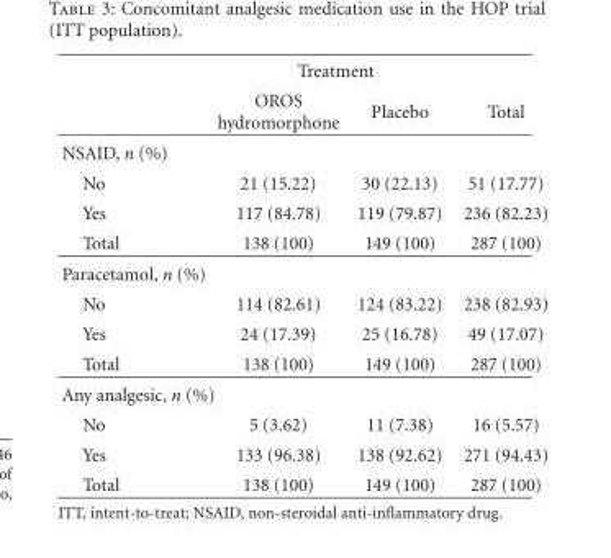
<table><thead><tr><td rowspan="2"></td><td colspan="2">Treatment</td><td rowspan="2">Total</td></tr><tr><td>OROS hydromorphone</td><td>Placebo</td></tr></thead><tbody><tr><td colspan="4">NSAID, n (%)</td></tr><tr><td>No</td><td>21 (15.22)</td><td>30 (22.13)</td><td>51 (17.77)</td></tr><tr><td>Yes</td><td>117 (84.78)</td><td>119 (79.87)</td><td>236 (82.23)</td></tr><tr><td>Total</td><td>138 (100)</td><td>149 (100)</td><td>287 (100)</td></tr><tr><td colspan="4">Paracetamol, n (%)</td></tr><tr><td>No</td><td>114 (82.61)</td><td>124 (83.22)</td><td>238 (82.93)</td></tr><tr><td>Yes</td><td>24 (17.39)</td><td>25 (16.78)</td><td>49 (17.07)</td></tr><tr><td>Total</td><td>138 (100)</td><td>149 (100)</td><td>287 (100)</td></tr><tr><td colspan="4">Any analgesic, n (%)</td></tr><tr><td>No</td><td>5 (3.62)</td><td>11 (7.38)</td><td>16 (5.57)</td></tr><tr><td>Yes</td><td>133 (96.38)</td><td>138 (92.62)</td><td>271 (94.43)</td></tr><tr><td>Total</td><td>138 (100)</td><td>149 (100)</td><td>287 (100)</td></tr></tbody></table>